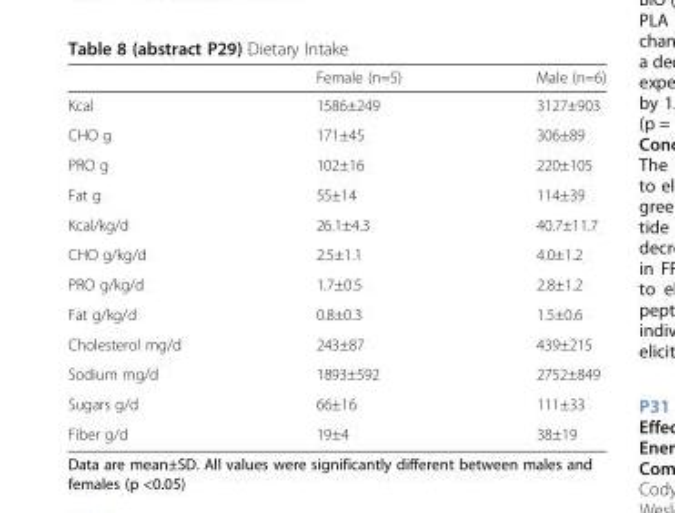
<table><thead><tr><td></td><td>Female (n=5)</td><td>Male (n=6)</td></tr></thead><tbody><tr><td>Kcal</td><td>1586±249</td><td>3127±903</td></tr><tr><td>CHO g</td><td>171±45</td><td>306±89</td></tr><tr><td>PRO g</td><td>102±16</td><td>220±105</td></tr><tr><td>Fat g</td><td>55±14</td><td>114±39</td></tr><tr><td>Kcal/kg/d</td><td>26.1±4.3</td><td>40.7±11.7</td></tr><tr><td>CHO g/kg/d</td><td>2.5±1.1</td><td>4.0±1.2</td></tr><tr><td>PRO g/kg/d</td><td>1.7±0.5</td><td>2.8±1.2</td></tr><tr><td>Fat g/kg/d</td><td>0.8±0.3</td><td>1.5±0.6</td></tr><tr><td>Cholesterol mg/d</td><td>243±87</td><td>439±215</td></tr><tr><td>Sodium mg/d</td><td>1893±592</td><td>2752±849</td></tr><tr><td>Sugars g/d</td><td>66±16</td><td>111±33</td></tr><tr><td>Fiber g/d</td><td>19±4</td><td>38±19</td></tr></tbody></table>